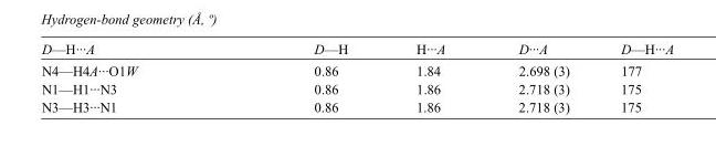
<table><tbody><tr><td>D—H···A</td><td>D—H</td><td>H···A</td><td>D···A</td><td>D—H···A</td></tr><tr><td>N4—H4A···O1W</td><td>0.86</td><td>1.84</td><td>2.698 (3)</td><td>177</td></tr><tr><td>N1—H1···N3</td><td>0.86</td><td>1.86</td><td>2.718 (3)</td><td>175</td></tr><tr><td>N3—H3···N1</td><td>0.86</td><td>1.86</td><td>2.718 (3)</td><td>175</td></tr></tbody></table>